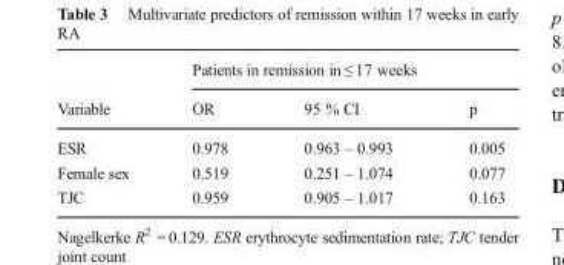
<table><thead><tr><td rowspan="2">Variable</td><td colspan="3">Patients in remission in ≤ 17 weeks</td></tr><tr><td>OR</td><td>95 % CI</td><td>p</td></tr></thead><tbody><tr><td>ESR</td><td>0.978</td><td>0.963 – 0.993</td><td>0.005</td></tr><tr><td>Female sex</td><td>0.519</td><td>0.251 – 1.074</td><td>0.077</td></tr><tr><td>TJC</td><td>0.959</td><td>0.905 – 1.017</td><td>0.163</td></tr></tbody></table>